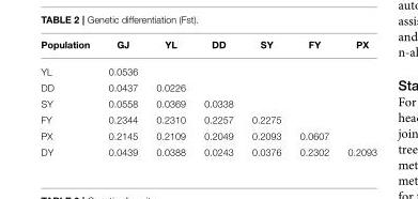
<table><thead><tr><td>Population</td><td>GJ</td><td>YL</td><td>DD</td><td>SY</td><td>FY</td><td>PX</td></tr></thead><tbody><tr><td>YL</td><td>0.0536</td><td></td><td></td><td></td><td></td><td></td></tr><tr><td>DD</td><td>0.0437</td><td>0.0226</td><td></td><td></td><td></td><td></td></tr><tr><td>SY</td><td>0.0558</td><td>0.0369</td><td>0.0338</td><td></td><td></td><td></td></tr><tr><td>FY</td><td>0.2344</td><td>0.2310</td><td>0.2257</td><td>0.2275</td><td></td><td></td></tr><tr><td>PX</td><td>0.2145</td><td>0.2109</td><td>0.2049</td><td>0.2093</td><td>0.0607</td><td></td></tr><tr><td>DY</td><td>0.0439</td><td>0.0388</td><td>0.0243</td><td>0.0376</td><td>0.2302</td><td>0.2093</td></tr></tbody></table>